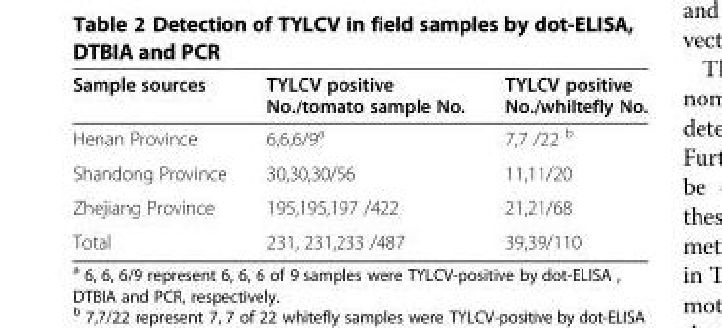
<table><thead><tr><td>Sample sources</td><td>TYLCV positive No./tomato sample No.</td><td>TYLCV positive No./whiltefly No.</td></tr></thead><tbody><tr><td>Henan Province</td><td>6,6,6/9<sup>a</sup></td><td>7,7 /22 <sup>b</sup></td></tr><tr><td>Shandong Province</td><td>30,30,30/56</td><td>11,11/20</td></tr><tr><td>Zhejiang Province</td><td>195,195,197 /422</td><td>21,21/68</td></tr><tr><td>Total</td><td>231, 231,233 /487</td><td>39,39/110</td></tr></tbody></table>